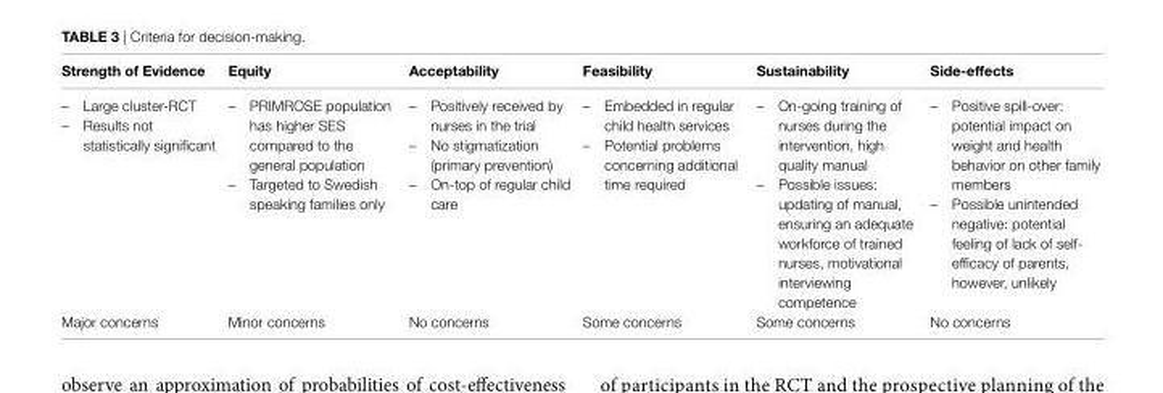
<table><thead><tr><td>strength of evidence</td><td>equity</td><td>acceptability</td><td>Feasibility</td><td>sustainability</td><td>side-effects</td></tr></thead><tbody><tr><td>– Large cluster-RCT – Results not statistically significant</td><td>– PRIMROSE population has higher SES compared to the general population – Targeted to Swedish speaking families only</td><td>– Positively received by nurses in the trial – No stigmatization (primary prevention) – On-top of regular child care</td><td>– Embedded in regular child health services – Potential problems concerning additional time required</td><td>– On-going training of nurses during the intervention, high quality manual – Possible issues: updating of manual, ensuring an adequate workforce of trained nurses, motivational interviewing competence</td><td>– Positive spill-over: potential impact on weight and health behavior on other family members – Possible unintended negative: potential feeling of lack of self- efficacy of parents, however, unlikely</td></tr><tr><td>Major concerns</td><td>Minor concerns</td><td>No concerns</td><td>Some concerns</td><td>Some concerns</td><td>No concerns</td></tr></tbody></table>